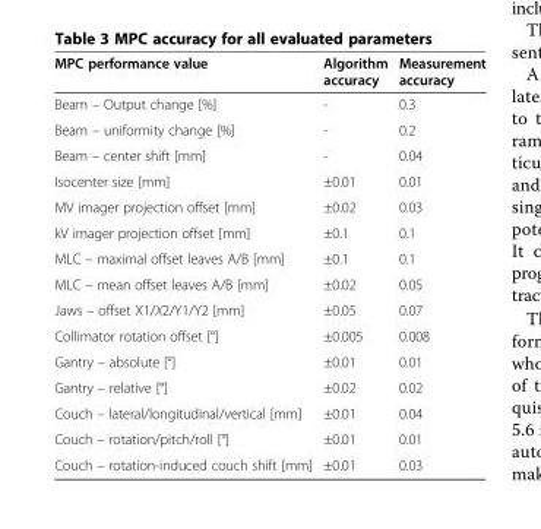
<table><thead><tr><td>MPC performance value</td><td>Algorithm accuracy</td><td>Measurement accuracy</td></tr></thead><tbody><tr><td>Beam – Output change [%]</td><td>-</td><td>0.3</td></tr><tr><td>Beam – uniformity change [%]</td><td>-</td><td>0.2</td></tr><tr><td>Beam – center shift [mm]</td><td>-</td><td>0.04</td></tr><tr><td>Isocenter size [mm]</td><td>±0.01</td><td>0.01</td></tr><tr><td>MV imager projection offset [mm]</td><td>±0.02</td><td>0.03</td></tr><tr><td>kV imager projection offset [mm]</td><td>±0.1</td><td>0.1</td></tr><tr><td>MLC – maximal offset leaves A/B [mm]</td><td>±0.1</td><td>0.1</td></tr><tr><td>MLC – mean offset leaves A/B [mm]</td><td>±0.02</td><td>0.05</td></tr><tr><td>Jaws – offset X1/X2/Y1/Y2 [mm]</td><td>±0.05</td><td>0.07</td></tr><tr><td>Collimator rotation offset [°]</td><td>±0.005</td><td>0.008</td></tr><tr><td>Gantry – absolute [°]</td><td>±0.01</td><td>0.01</td></tr><tr><td>Gantry – relative [°]</td><td>±0.02</td><td>0.02</td></tr><tr><td>Couch – lateral/longitudinal/vertical [mm]</td><td>±0.01</td><td>0.04</td></tr><tr><td>Couch – rotation/pitch/roll [°]</td><td>±0.01</td><td>0.01</td></tr><tr><td>Couch – rotation-induced couch shift [mm]</td><td>±0.01</td><td>0.03</td></tr></tbody></table>